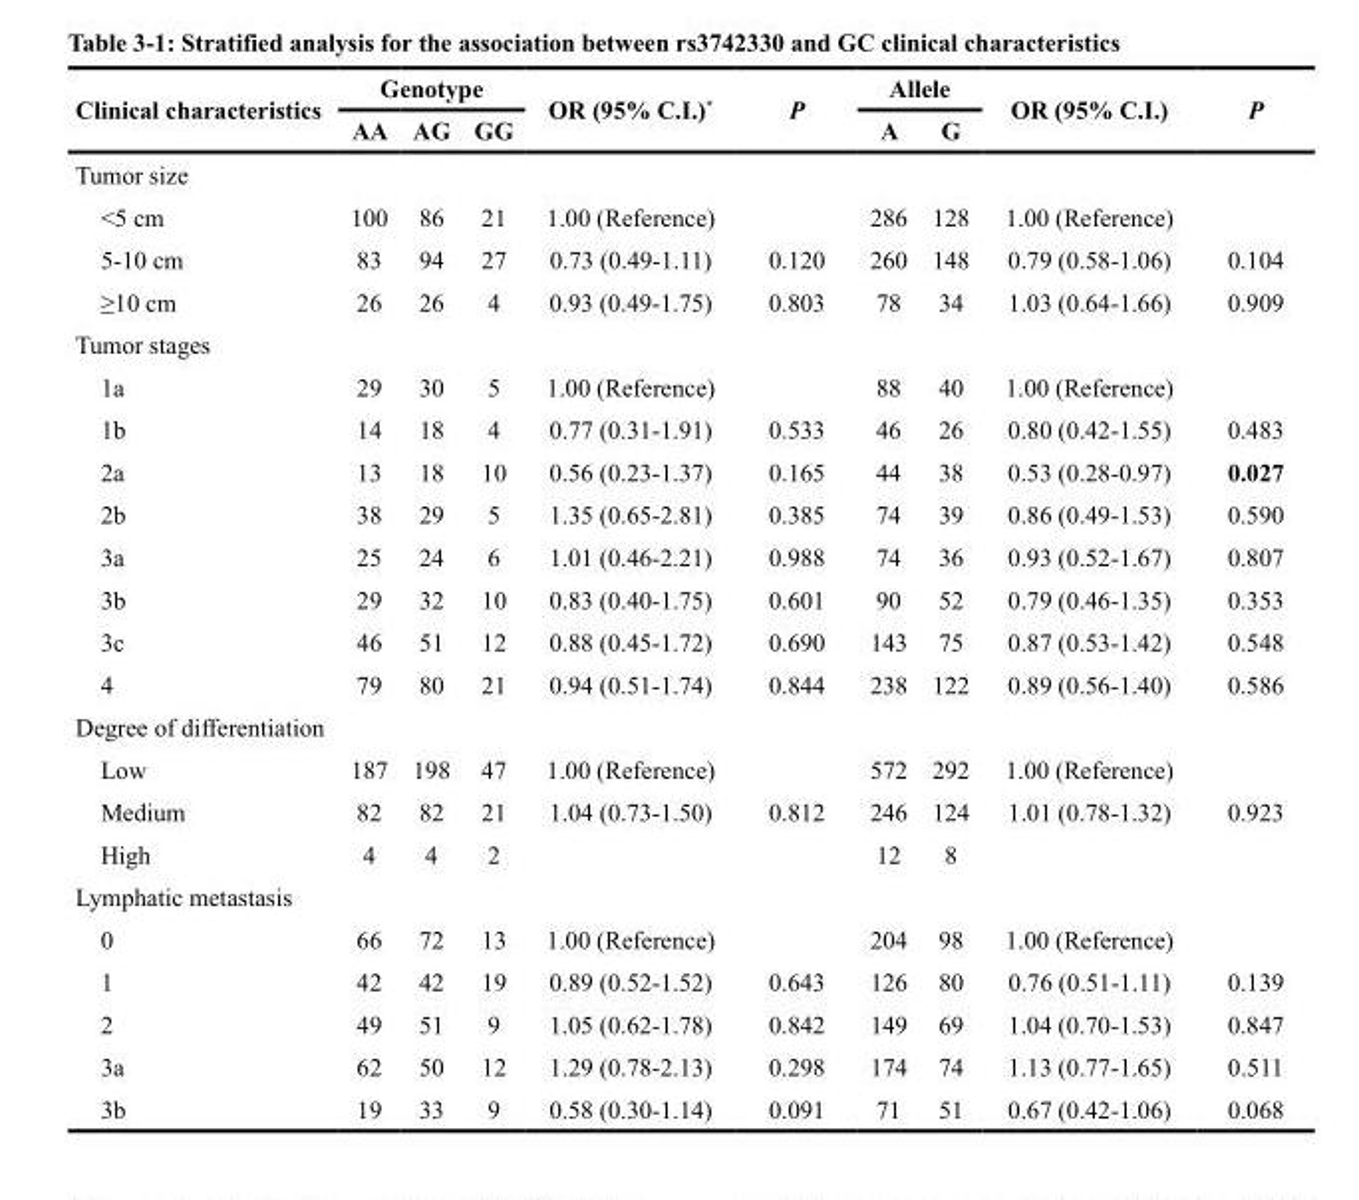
<table><thead><tr><td rowspan="2">Clinical characteristics</td><td colspan="3">Genotype</td><td rowspan="2">OR (95% C.I.)*</td><td rowspan="2">P</td><td colspan="2">Allele</td><td rowspan="2">OR (95% C.I.)</td><td rowspan="2">P</td></tr><tr><td>AA</td><td>AG</td><td>GG</td><td>A</td><td>G</td></tr></thead><tbody><tr><td colspan="10">Tumor size</td></tr><tr><td>&lt;5 cm</td><td>100</td><td>86</td><td>21</td><td>1.00 (Reference)</td><td></td><td>286</td><td>128</td><td>1.00 (Reference)</td><td></td></tr><tr><td>5-10 cm</td><td>83</td><td>94</td><td>27</td><td>0.73 (0.49-1.11)</td><td>0.120</td><td>260</td><td>148</td><td>0.79 (0.58-1.06)</td><td>0.104</td></tr><tr><td>≥10 cm</td><td>26</td><td>26</td><td>4</td><td>0.93 (0.49-1.75)</td><td>0.803</td><td>78</td><td>34</td><td>1.03 (0.64-1.66)</td><td>0.909</td></tr><tr><td colspan="10">Tumor stages</td></tr><tr><td>1a</td><td>29</td><td>30</td><td>5</td><td>1.00 (Reference)</td><td></td><td>88</td><td>40</td><td>1.00 (Reference)</td><td></td></tr><tr><td>1b</td><td>14</td><td>18</td><td>4</td><td>0.77 (0.31-1.91)</td><td>0.533</td><td>46</td><td>26</td><td>0.80 (0.42-1.55)</td><td>0.483</td></tr><tr><td>2a</td><td>13</td><td>18</td><td>10</td><td>0.56 (0.23-1.37)</td><td>0.165</td><td>44</td><td>38</td><td>0.53 (0.28-0.97)</td><td>0.027</td></tr><tr><td>2b</td><td>38</td><td>29</td><td>5</td><td>1.35 (0.65-2.81)</td><td>0.385</td><td>74</td><td>39</td><td>0.86 (0.49-1.53)</td><td>0.590</td></tr><tr><td>3a</td><td>25</td><td>24</td><td>6</td><td>1.01 (0.46-2.21)</td><td>0.988</td><td>74</td><td>36</td><td>0.93 (0.52-1.67)</td><td>0.807</td></tr><tr><td>3b</td><td>29</td><td>32</td><td>10</td><td>0.83 (0.40-1.75)</td><td>0.601</td><td>90</td><td>52</td><td>0.79 (0.46-1.35)</td><td>0.353</td></tr><tr><td>3c</td><td>46</td><td>51</td><td>12</td><td>0.88 (0.45-1.72)</td><td>0.690</td><td>143</td><td>75</td><td>0.87 (0.53-1.42)</td><td>0.548</td></tr><tr><td>4</td><td>79</td><td>80</td><td>21</td><td>0.94 (0.51-1.74)</td><td>0.844</td><td>238</td><td>122</td><td>0.89 (0.56-1.40)</td><td>0.586</td></tr><tr><td colspan="10">Degree of differentiation</td></tr><tr><td>Low</td><td>187</td><td>198</td><td>47</td><td>1.00 (Reference)</td><td></td><td>572</td><td>292</td><td>1.00 (Reference)</td><td></td></tr><tr><td>Medium</td><td>82</td><td>82</td><td>21</td><td>1.04 (0.73-1.50)</td><td>0.812</td><td>246</td><td>124</td><td>1.01 (0.78-1.32)</td><td>0.923</td></tr><tr><td>High</td><td>4</td><td>4</td><td>2</td><td></td><td></td><td>12</td><td>8</td><td></td><td></td></tr><tr><td colspan="10">Lymphatic metastasis</td></tr><tr><td>0</td><td>66</td><td>72</td><td>13</td><td>1.00 (Reference)</td><td></td><td>204</td><td>98</td><td>1.00 (Reference)</td><td></td></tr><tr><td>1</td><td>42</td><td>42</td><td>19</td><td>0.89 (0.52-1.52)</td><td>0.643</td><td>126</td><td>80</td><td>0.76 (0.51-1.11)</td><td>0.139</td></tr><tr><td>2</td><td>49</td><td>51</td><td>9</td><td>1.05 (0.62-1.78)</td><td>0.842</td><td>149</td><td>69</td><td>1.04 (0.70-1.53)</td><td>0.847</td></tr><tr><td>3a</td><td>62</td><td>50</td><td>12</td><td>1.29 (0.78-2.13)</td><td>0.298</td><td>174</td><td>74</td><td>1.13 (0.77-1.65)</td><td>0.511</td></tr><tr><td>3b</td><td>19</td><td>33</td><td>9</td><td>0.58 (0.30-1.14)</td><td>0.091</td><td>71</td><td>51</td><td>0.67 (0.42-1.06)</td><td>0.068</td></tr></tbody></table>